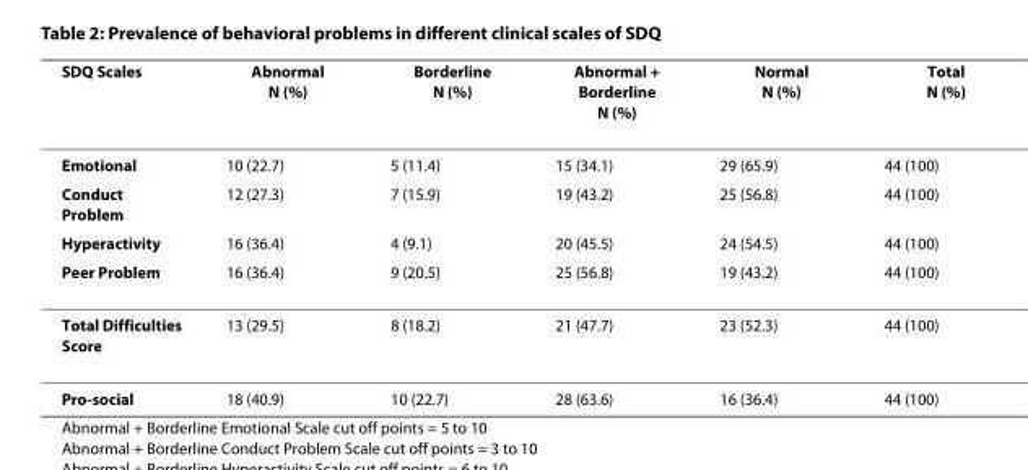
<table><thead><tr><td>SDQ Scales</td><td>Abnormal N (%)</td><td>Borderline N (%)</td><td>Abnormal + Borderline N (%)</td><td>Normal N (%)</td><td>Total N (%)</td></tr></thead><tbody><tr><td>Emotional</td><td>10 (22.7)</td><td>5 (11.4)</td><td>15 (34.1)</td><td>29 (65.9)</td><td>44 (100)</td></tr><tr><td>Conduct Problem</td><td>12 (27.3)</td><td>7 (15.9)</td><td>19 (43.2)</td><td>25 (56.8)</td><td>44 (100)</td></tr><tr><td>Hyperactivity</td><td>16 (36.4)</td><td>4 (9.1)</td><td>20 (45.5)</td><td>24 (54.5)</td><td>44 (100)</td></tr><tr><td>Peer Problem</td><td>16 (36.4)</td><td>9 (20.5)</td><td>25 (56.8)</td><td>19 (43.2)</td><td>44 (100)</td></tr><tr><td>Total Difficulties Score</td><td>13 (29.5)</td><td>8 (18.2)</td><td>21 (47.7)</td><td>23 (52.3)</td><td>44 (100)</td></tr><tr><td>Pro-social</td><td>18 (40.9)</td><td>10 (22.7)</td><td>28 (63.6)</td><td>16 (36.4)</td><td>44 (100)</td></tr></tbody></table>